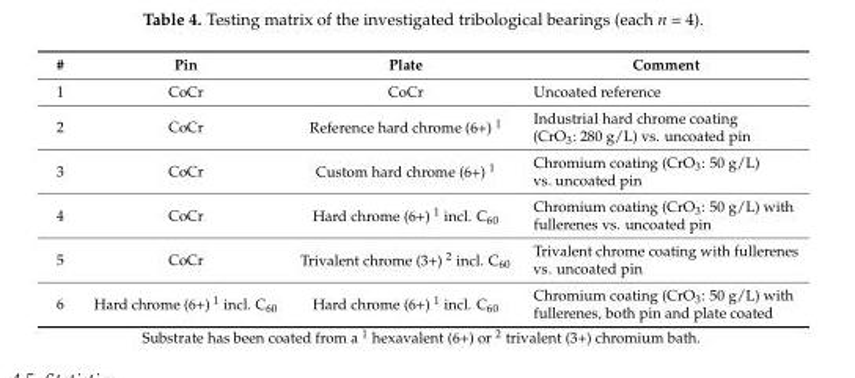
<table><thead><tr><td>#</td><td>Pin</td><td>Plate</td><td>Comment</td></tr></thead><tbody><tr><td>1</td><td>CoCr</td><td>CoCr</td><td>Uncoated reference</td></tr><tr><td>2</td><td>CoCr</td><td>Reference hard chrome (6+) <sup>1</sup></td><td>Industrial hard chrome coating (CrO<sub>3</sub>: 280 g/L) vs. uncoated pin</td></tr><tr><td>3</td><td>CoCr</td><td>Custom hard chrome (6+) <sup>1</sup></td><td>Chromium coating (CrO<sub>3</sub>: 50 g/L) vs. uncoated pin</td></tr><tr><td>4</td><td>CoCr</td><td>Hard chrome (6+) <sup>1</sup> incl. C<sub>60</sub></td><td>Chromium coating (CrO<sub>3</sub>: 50 g/L) with fullerenes vs. uncoated pin</td></tr><tr><td>5</td><td>CoCr</td><td>Trivalent chrome (3+) <sup>2</sup> incl. C<sub>60</sub></td><td>Trivalent chrome coating with fullerenes vs. uncoated pin</td></tr><tr><td>6</td><td>Hard chrome (6+) <sup>1</sup> incl. C<sub>60</sub></td><td>Hard chrome (6+) <sup>1</sup> incl. C<sub>60</sub></td><td>Chromium coating (CrO<sub>3</sub>: 50 g/L) with fullerenes, both pin and plate coated</td></tr></tbody></table>